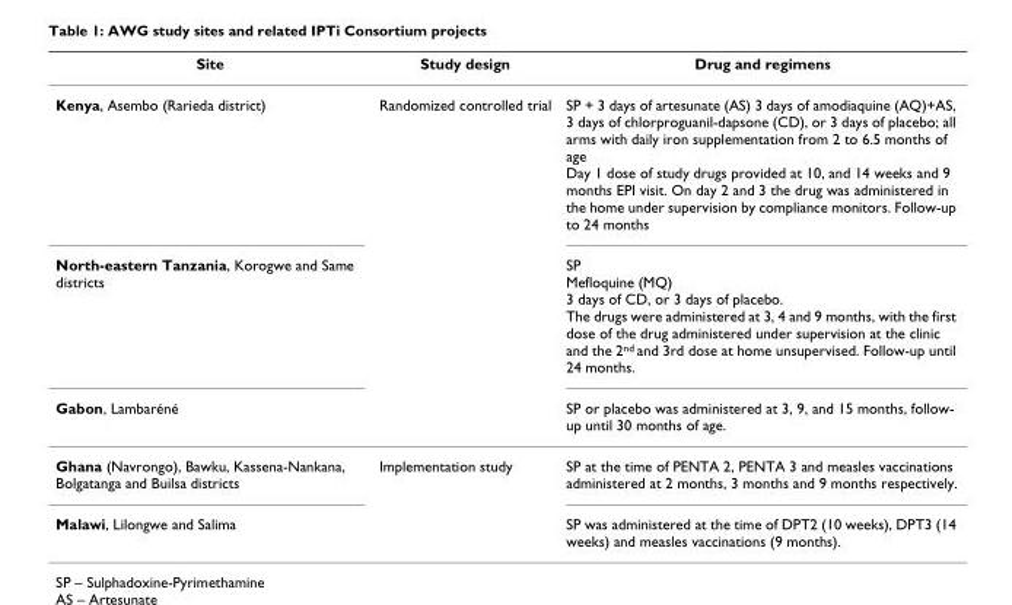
<table><thead><tr><td>Site</td><td>Study design</td><td>Drug and regimens</td></tr></thead><tbody><tr><td>Kenya, Asembo (Rarieda district)</td><td>Randomized controlled trial</td><td>SP + 3 days of artesunate (AS) 3 days of amodiaquine (AQ)+AS, 3 days of chlorproguanil-dapsone (CD), or 3 days of placebo; all arms with daily iron supplementation from 2 to 6.5 months of age Day 1 dose of study drugs provided at 10, and 14 weeks and 9 months EPI visit. On day 2 and 3 the drug was administered in the home under supervision by compliance monitors. Follow-up to 24 months</td></tr><tr><td>North-eastern Tanzania, Korogwe and Same districts</td><td></td><td>SP Mefloquine (MQ) 3 days of CD, or 3 days of placebo. The drugs were administered at 3, 4 and 9 months, with the first dose of the drug administered under supervision at the clinic and the 2<sup>nd</sup> and 3rd dose at home unsupervised. Follow-up until 24 months.</td></tr><tr><td>Gabon, Lambaréné</td><td></td><td>SP or placebo was administered at 3, 9, and 15 months, follow- up until 30 months of age.</td></tr><tr><td>Ghana (Navrongo), Bawku, Kassena-Nankana, Bolgatanga and Builsa districts</td><td>Implementation study</td><td>SP at the time of PENTA 2, PENTA 3 and measles vaccinations administered at 2 months, 3 months and 9 months respectively.</td></tr><tr><td>Malawi, Lilongwe and Salima</td><td></td><td>SP was administered at the time of DPT2 (10 weeks), DPT3 (14 weeks) and measles vaccinations (9 months).</td></tr></tbody></table>